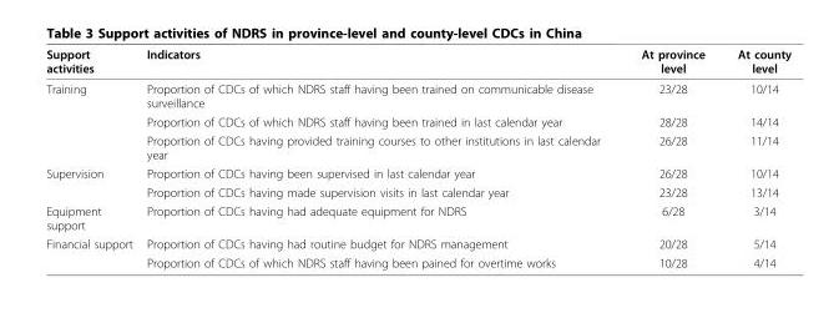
<table><thead><tr><td>Support activities</td><td>Indicators</td><td>At province level</td><td>At county level</td></tr></thead><tbody><tr><td rowspan="3">Training</td><td>Proportion of CDCs of which NDRS staff having been trained on communicable disease surveillance</td><td>23/28</td><td>10/14</td></tr><tr><td>Proportion of CDCs of which NDRS staff having been trained in last calendar year</td><td>28/28</td><td>14/14</td></tr><tr><td>Proportion of CDCs having provided training courses to other institutions in last calendar year</td><td>26/28</td><td>11/14</td></tr><tr><td rowspan="2">Supervision</td><td>Proportion of CDCs having been supervised in last calendar year</td><td>26/28</td><td>10/14</td></tr><tr><td>Proportion of CDCs having made supervision visits in last calendar year</td><td>23/28</td><td>13/14</td></tr><tr><td>Equipment support</td><td>Proportion of CDCs having had adequate equipment for NDRS</td><td>6/28</td><td>3/14</td></tr><tr><td rowspan="2">Financial support</td><td>Proportion of CDCs having had routine budget for NDRS management</td><td>20/28</td><td>5/14</td></tr><tr><td>Proportion of CDCs of which NDRS staff having been pained for overtime works</td><td>10/28</td><td>4/14</td></tr></tbody></table>